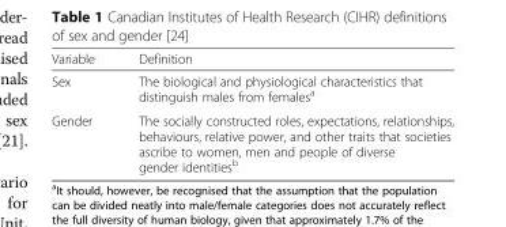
<table><thead><tr><td>Variable</td><td>Definition</td></tr></thead><tbody><tr><td>Sex</td><td>The biological and physiological characteristics that distinguish males from females<sup>a</sup></td></tr><tr><td>Gender</td><td>The socially constructed roles, expectations, relationships, behaviours, relative power, and other traits that societies ascribe to women, men and people of diverse gender identities<sup>b</sup></td></tr></tbody></table>